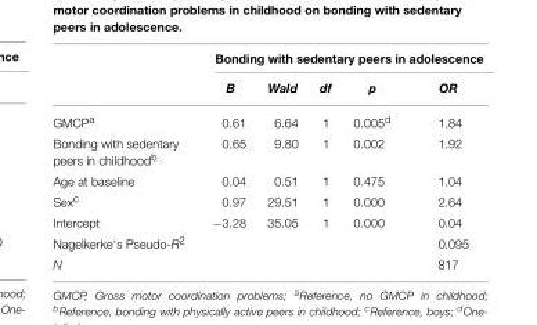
<table><thead><tr><td rowspan="2"></td><td colspan="5">Bonding with sedentary peers in adolescence</td></tr><tr><td>B</td><td>Wald</td><td>df</td><td>p</td><td>OR</td></tr></thead><tbody><tr><td>GMCP<sup>a</sup></td><td>0.61</td><td>6.64</td><td>1</td><td>0.005<sup>d</sup></td><td>1.84</td></tr><tr><td>Bonding with sedentary peers in childhood<sup>b</sup></td><td>0.65</td><td>9.80</td><td>1</td><td>0.002</td><td>1.92</td></tr><tr><td>Age at baseline</td><td>0.04</td><td>0.51</td><td>1</td><td>0.475</td><td>1.04</td></tr><tr><td>Sex<sup>c</sup></td><td>0.97</td><td>29.51</td><td>1</td><td>0.000</td><td>2.64</td></tr><tr><td>Intercept</td><td>−3.28</td><td>35.05</td><td>1</td><td>0.000</td><td>0.04</td></tr><tr><td>Nagelkerke‘s Pseudo-R<sup>2</sup></td><td></td><td></td><td></td><td></td><td>0.095</td></tr><tr><td>N</td><td></td><td></td><td></td><td></td><td>817</td></tr></tbody></table>